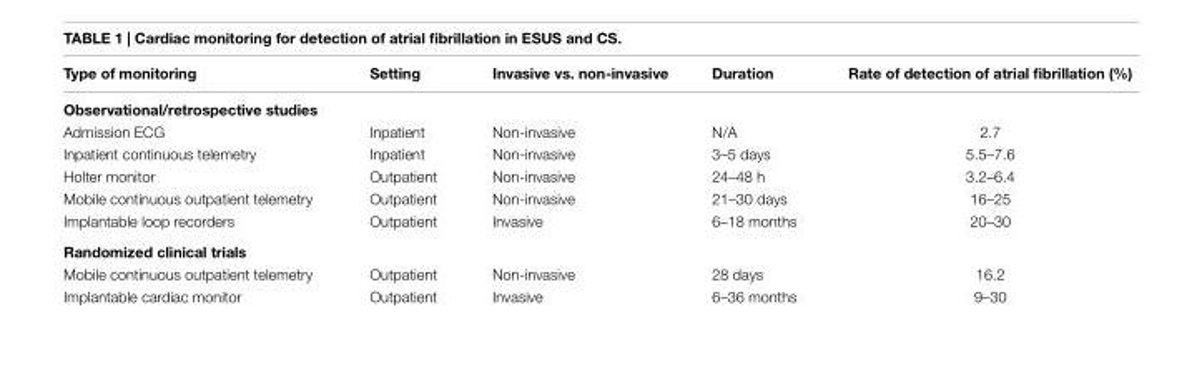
<table><thead><tr><td>Type of monitoring</td><td>Setting</td><td>invasive vs. non-invasive</td><td>Duration</td><td>Rate of detection of atrial fibrillation (%)</td></tr></thead><tbody><tr><td colspan="5">Observational/retrospective studies</td></tr><tr><td>Admission ECG</td><td>Inpatient</td><td>Non-invasive</td><td>N/A</td><td>2.7</td></tr><tr><td>Inpatient continuous telemetry</td><td>Inpatient</td><td>Non-invasive</td><td>3–5 days</td><td>5.5–7.6</td></tr><tr><td>Holter monitor</td><td>Outpatient</td><td>Non-invasive</td><td>24–48 h</td><td>3.2–6.4</td></tr><tr><td>Mobile continuous outpatient telemetry</td><td>Outpatient</td><td>Non-invasive</td><td>21–30 days</td><td>16–25</td></tr><tr><td>Implantable loop recorders</td><td>Outpatient</td><td>Invasive</td><td>6–18 months</td><td>20–30</td></tr><tr><td colspan="5">Randomized clinical trials</td></tr><tr><td>Mobile continuous outpatient telemetry</td><td>Outpatient</td><td>Non-invasive</td><td>28 days</td><td>16.2</td></tr><tr><td>Implantable cardiac monitor</td><td>Outpatient</td><td>Invasive</td><td>6–36 months</td><td>9–30</td></tr></tbody></table>